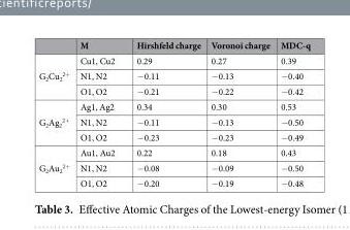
<table><thead><tr><td></td><td>M</td><td>Hirshfeld charge</td><td>Voronoi charge</td><td>MDC-q</td></tr></thead><tbody><tr><td rowspan="3">G<sub>2</sub>Cu<sub>2</sub> <sup>2+</sup></td><td>Cu1, Cu2</td><td>0.29</td><td>0.27</td><td>0.39</td></tr><tr><td>N1, N2</td><td>−0.11</td><td>−0.13</td><td>−0.40</td></tr><tr><td>O1, O2</td><td>−0.21</td><td>−0.22</td><td>−0.42</td></tr><tr><td rowspan="3">G<sub>2</sub>Ag<sub>2</sub> <sup>2+</sup></td><td>Ag1, Ag2</td><td>0.34</td><td>0.30</td><td>0.53</td></tr><tr><td>N1, N2</td><td>−0.11</td><td>−0.13</td><td>−0.50</td></tr><tr><td>O1, O2</td><td>−0.23</td><td>−0.23</td><td>−0.49</td></tr><tr><td rowspan="3">G<sub>2</sub>Au<sub>2</sub> <sup>2+</sup></td><td>Au1, Au2</td><td>0.22</td><td>0.18</td><td>0.43</td></tr><tr><td>N1, N2</td><td>−0.08</td><td>−0.09</td><td>−0.50</td></tr><tr><td>O1, O2</td><td>−0.20</td><td>−0.19</td><td>−0.48</td></tr></tbody></table>